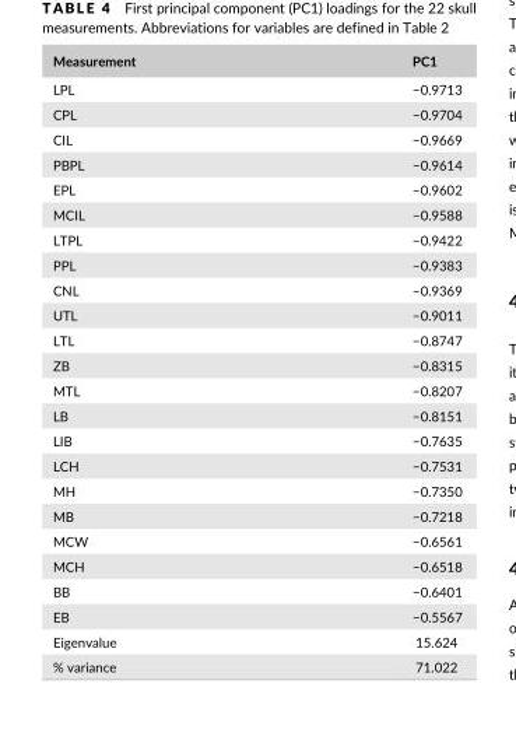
<table><thead><tr><td>Measurement</td><td>PC1</td></tr></thead><tbody><tr><td>LPL</td><td>−0.9713</td></tr><tr><td>CPL</td><td>−0.9704</td></tr><tr><td>CIL</td><td>−0.9669</td></tr><tr><td>PBPL</td><td>−0.9614</td></tr><tr><td>EPL</td><td>−0.9602</td></tr><tr><td>MCIL</td><td>−0.9588</td></tr><tr><td>LTPL</td><td>−0.9422</td></tr><tr><td>PPL</td><td>−0.9383</td></tr><tr><td>CNL</td><td>−0.9369</td></tr><tr><td>UTL</td><td>−0.9011</td></tr><tr><td>LTL</td><td>−0.8747</td></tr><tr><td>ZB</td><td>−0.8315</td></tr><tr><td>MTL</td><td>−0.8207</td></tr><tr><td>LB</td><td>−0.8151</td></tr><tr><td>LIB</td><td>−0.7635</td></tr><tr><td>LCH</td><td>−0.7531</td></tr><tr><td>MH</td><td>−0.7350</td></tr><tr><td>MB</td><td>−0.7218</td></tr><tr><td>MCW</td><td>−0.6561</td></tr><tr><td>MCH</td><td>−0.6518</td></tr><tr><td>BB</td><td>−0.6401</td></tr><tr><td>EB</td><td>−0.5567</td></tr><tr><td>Eigenvalue</td><td>15.624</td></tr><tr><td>% variance</td><td>71.022</td></tr></tbody></table>